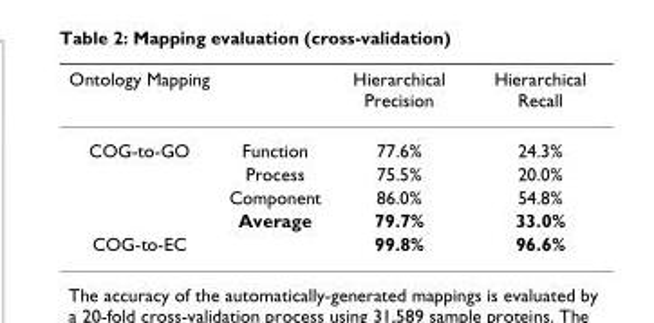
<table><thead><tr><td>Ontology Mapping</td><td></td><td>Hierarchical Precision</td><td>Hierarchical Recall</td></tr></thead><tbody><tr><td rowspan="4">COG-to-GO</td><td>Function</td><td>77.6%</td><td>24.3%</td></tr><tr><td>Process</td><td>75.5%</td><td>20.0%</td></tr><tr><td>Component</td><td>86.0%</td><td>54.8%</td></tr><tr><td>Average</td><td>79.7%</td><td>33.0%</td></tr><tr><td>COG-to-EC</td><td></td><td>99.8%</td><td>96.6%</td></tr></tbody></table>